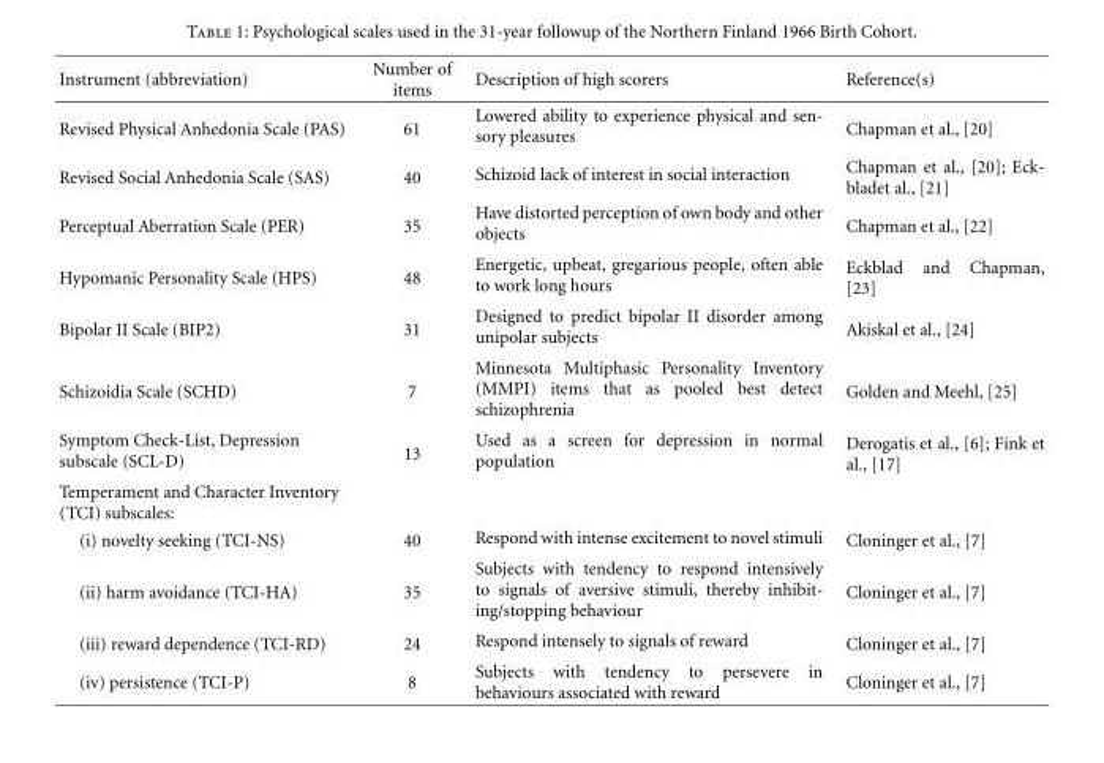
<table><thead><tr><td>Instrument (abbreviation)</td><td>Number of items</td><td>Description of high scorers</td><td>Reference(s)</td></tr></thead><tbody><tr><td>Revised Physical Anhedonia Scale (PAS)</td><td>61</td><td>Lowered ability to experience physical and sen- sory pleasures</td><td>Chapman et al., [20]</td></tr><tr><td>Revised Social Anhedonia Scale (SAS)</td><td>40</td><td>Schizoid lack of interest in social interaction</td><td>Chapman et al., [20]; Eck- bladet al., [21]</td></tr><tr><td>Perceptual Aberration Scale (PER)</td><td>35</td><td>Have distorted perception of own body and other objects</td><td>Chapman et al., [22]</td></tr><tr><td>Hypomanic Personality Scale (HPS)</td><td>48</td><td>Energetic, upbeat, gregarious people, often able to work long hours</td><td>Eckblad and Chapman, [23]</td></tr><tr><td>Bipolar II Scale (BIP2)</td><td>31</td><td>Designed to predict bipolar II disorder among unipolar subjects</td><td>Akiskal et al., [24]</td></tr><tr><td>Schizoidia Scale (SCHD)</td><td>7</td><td>Minnesota Multiphasic Personality Inventory (MMPI) items that as pooled best detect schizophrenia</td><td>Golden and Meehl, [25]</td></tr><tr><td>Symptom Check-List, Depression subscale (SCL-D)</td><td>13</td><td>Used as a screen for depression in normal population</td><td>Derogatis et al., [6]; Fink et al., [17]</td></tr><tr><td colspan="4">Temperament and Character Inventory (TCI) subscales:</td></tr><tr><td>(i) novelty seeking (TCI-NS)</td><td>40</td><td>Respond with intense excitement to novel stimuli</td><td>Cloninger et al., [7]</td></tr><tr><td>(ii) harm avoidance (TCI-HA)</td><td>35</td><td>Subjects with tendency to respond intensively to signals of aversive stimuli, thereby inhibit- ing/stopping behaviour</td><td>Cloninger et al., [7]</td></tr><tr><td>(iii) reward dependence (TCI-RD)</td><td>24</td><td>Respond intensely to signals of reward</td><td>Cloninger et al., [7]</td></tr><tr><td>(iv) persistence (TCI-P)</td><td>8</td><td>Subjects with tendency to persevere in behaviours associated with reward</td><td>Cloninger et al., [7]</td></tr></tbody></table>